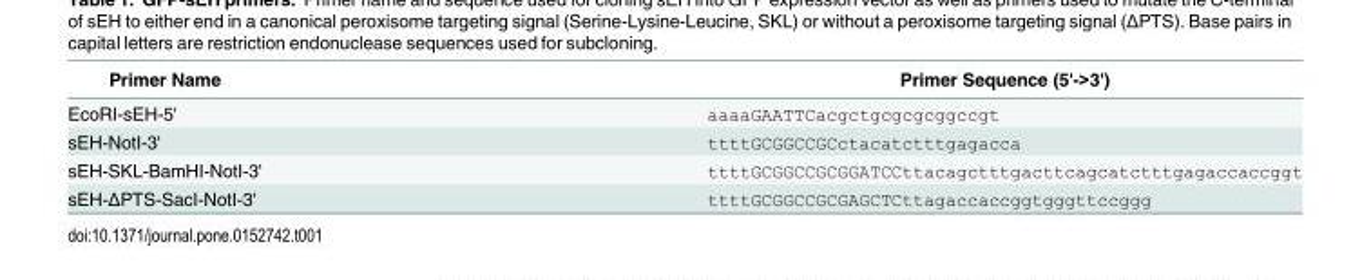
<table><thead><tr><td>Primer Name</td><td>Primer Sequence (5&#x27;-&gt;3&#x27;)</td></tr></thead><tbody><tr><td>EcoRI-sEH-5&#x27;</td><td>aaaaGAATTCacgctgcgcgcggccgt</td></tr><tr><td>sEH-NotI-3&#x27;</td><td>ttttGCGGCCGCctacatctttgagacca</td></tr><tr><td>sEH-SKL-BamHI-NotI-3&#x27;</td><td>ttttGCGGCCGCGGATCCttacagctttgacttcagcatctttgagaccaccggt</td></tr><tr><td>sEH-ΔPTS-SacI-NotI-3&#x27;</td><td>ttttGCGGCCGCGAGCTCttagaccaccggtgggttccggg</td></tr></tbody></table>